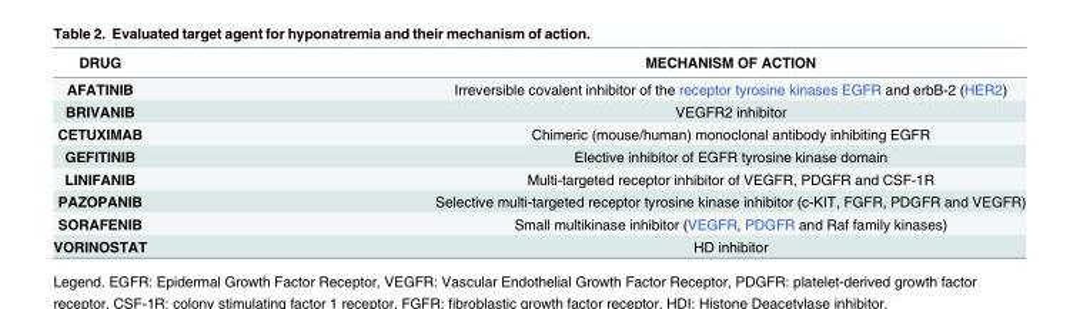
<table><thead><tr><td>DRUG</td><td>MECHANISM OF ACTION</td></tr></thead><tbody><tr><td>AFATINIB</td><td>Irreversible covalent inhibitor of the receptor tyrosine kinases EGFR and erbB-2 (HER2)</td></tr><tr><td>BRIVANIB</td><td>VEGFR2 inhibitor</td></tr><tr><td>CETUXIMAB</td><td>Chimeric (mouse/human) monoclonal antibody inhibiting EGFR</td></tr><tr><td>GEFITINIB</td><td>Elective inhibitor of EGFR tyrosine kinase domain</td></tr><tr><td>LINIFANIB</td><td>Multi-targeted receptor inhibitor of VEGFR, PDGFR and CSF-1R</td></tr><tr><td>PAZOPANIB</td><td>Selective multi-targeted receptor tyrosine kinase inhibitor (c-KIT, FGFR, PDGFR and VEGFR)</td></tr><tr><td>SORAFENIB</td><td>Small multikinase inhibitor (VEGFR, PDGFR and Raf family kinases)</td></tr><tr><td>VORINOSTAT</td><td>HD inhibitor</td></tr></tbody></table>